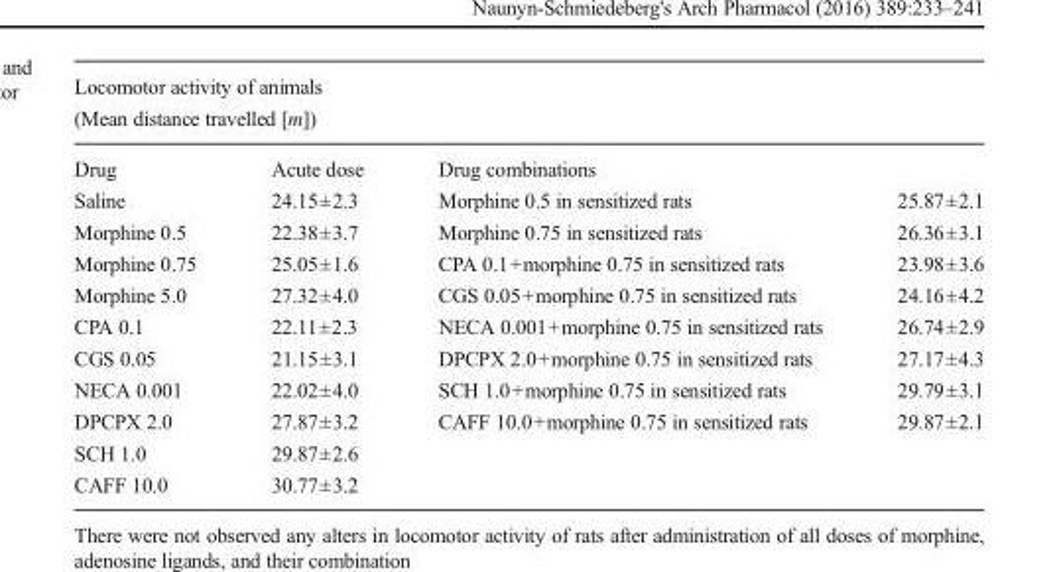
<table><thead><tr><td colspan="4">Locomotor activity of animals (Mean distance travelled [m])</td></tr><tr><td>Drug</td><td>Acute dose</td><td>Drug combinations</td><td></td></tr></thead><tbody><tr><td>Saline</td><td>24.15±2.3</td><td>Morphine 0.5 in sensitized rats</td><td>25.87±2.1</td></tr><tr><td>Morphine 0.5</td><td>22.38±3.7</td><td>Morphine 0.75 in sensitized rats</td><td>26.36±3.1</td></tr><tr><td>Morphine 0.75</td><td>25.05±1.6</td><td>CPA 0.1+morphine 0.75 in sensitized rats</td><td>23.98±3.6</td></tr><tr><td>Morphine 5.0</td><td>27.32±4.0</td><td>CGS 0.05+morphine 0.75 in sensitized rats</td><td>24.16±4.2</td></tr><tr><td>CPA 0.1</td><td>22.11±2.3</td><td>NECA 0.001+morphine 0.75 in sensitized rats</td><td>26.74±2.9</td></tr><tr><td>CGS 0.05</td><td>21.15±3.1</td><td>DPCPX 2.0+morphine 0.75 in sensitized rats</td><td>27.17±4.3</td></tr><tr><td>NECA 0.001</td><td>22.02±4.0</td><td>SCH 1.0+morphine 0.75 in sensitized rats</td><td>29.79±3.1</td></tr><tr><td>DPCPX 2.0</td><td>27.87±3.2</td><td>CAFF 10.0+morphine 0.75 in sensitized rats</td><td>29.87±2.1</td></tr><tr><td>SCH 1.0</td><td>29.87±2.6</td><td></td><td></td></tr><tr><td>CAFF 10.0</td><td>30.77±3.2</td><td></td><td></td></tr></tbody></table>